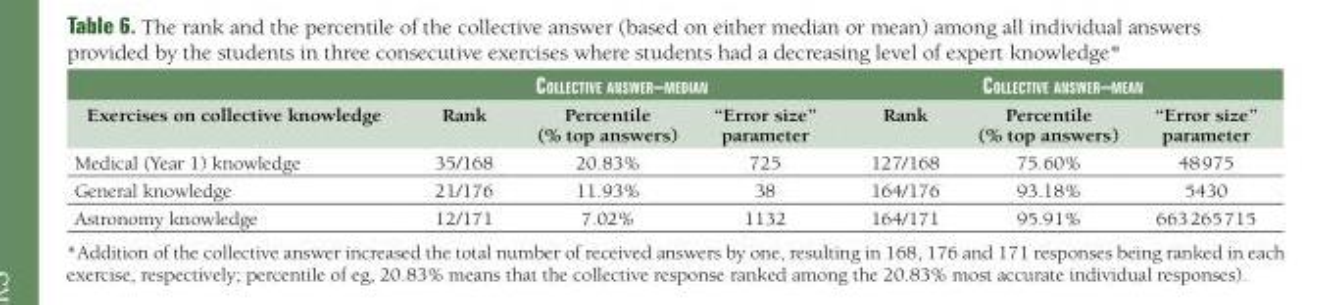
<table><thead><tr><td rowspan="2">Exercises on collective knowledge</td><td colspan="3">ColleCtive answer–median</td><td colspan="3">ColleCtive answer–mean</td></tr><tr><td>Rank</td><td>Percentile (% top answers)</td><td>“Error size” parameter</td><td>Rank</td><td>Percentile (% top answers)</td><td>“Error size” parameter</td></tr></thead><tbody><tr><td>Medical (Year 1) knowledge</td><td>35/168</td><td>20.83%</td><td>725</td><td>127/168</td><td>75.60%</td><td>48 975</td></tr><tr><td>General knowledge</td><td>21/176</td><td>11.93%</td><td>38</td><td>164/176</td><td>93.18%</td><td>5430</td></tr><tr><td>Astronomy knowledge</td><td>12/171</td><td>7.02%</td><td>1132</td><td>164/171</td><td>95.91%</td><td>663 265 715</td></tr></tbody></table>